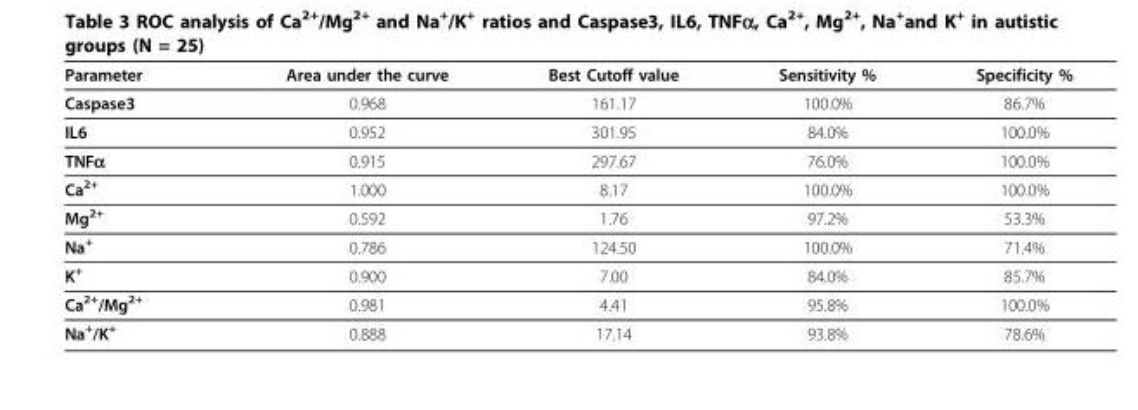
<table><thead><tr><td>Parameter</td><td>Area under the curve</td><td>Best Cutoff value</td><td>Sensitivity %</td><td>Specificity %</td></tr></thead><tbody><tr><td>Caspase3</td><td>0.968</td><td>161.17</td><td>100.0%</td><td>86.7%</td></tr><tr><td>IL6</td><td>0.952</td><td>301.95</td><td>84.0%</td><td>100.0%</td></tr><tr><td>TNFα</td><td>0.915</td><td>297.67</td><td>76.0%</td><td>100.0%</td></tr><tr><td>Ca<sup>2+</sup></td><td>1.000</td><td>8.17</td><td>100.0%</td><td>100.0%</td></tr><tr><td>Mg<sup>2+</sup></td><td>0.592</td><td>1.76</td><td>97.2%</td><td>53.3%</td></tr><tr><td>Na<sup>+</sup></td><td>0.786</td><td>124.50</td><td>100.0%</td><td>71.4%</td></tr><tr><td>K<sup>+</sup></td><td>0.900</td><td>7.00</td><td>84.0%</td><td>85.7%</td></tr><tr><td>Ca<sup>2+</sup>/Mg<sup>2+</sup></td><td>0.981</td><td>4.41</td><td>95.8%</td><td>100.0%</td></tr><tr><td>Na<sup>+</sup>/K<sup>+</sup></td><td>0.888</td><td>17.14</td><td>93.8%</td><td>78.6%</td></tr></tbody></table>